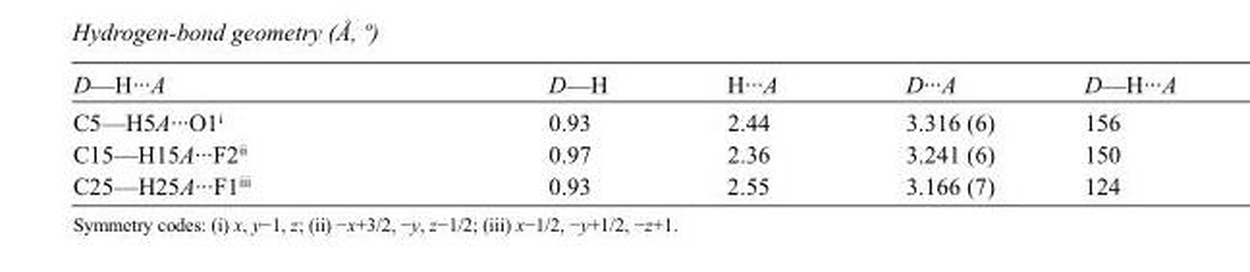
<table><tbody><tr><td>D—H···A</td><td>D—H</td><td>H···A</td><td>D···A</td><td>D—H···A</td></tr><tr><td>C5—H5A···O1<sup>i</sup></td><td>0.93</td><td>2.44</td><td>3.316 (6)</td><td>156</td></tr><tr><td>C15—H15A···F2<sup>ii</sup></td><td>0.97</td><td>2.36</td><td>3.241 (6)</td><td>150</td></tr><tr><td>C25—H25A···F1<sup>iii</sup></td><td>0.93</td><td>2.55</td><td>3.166 (7)</td><td>124</td></tr></tbody></table>